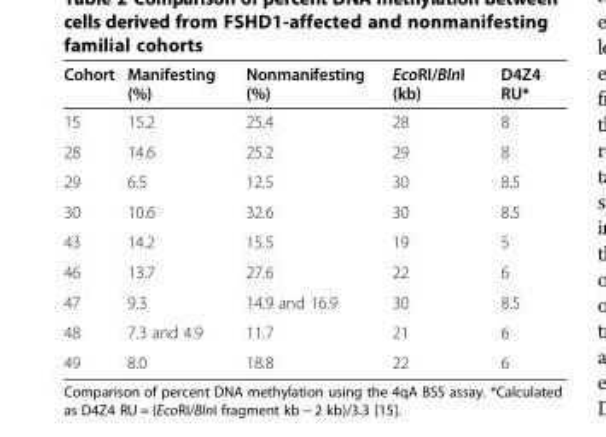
<table><thead><tr><td>Cohort</td><td>Manifesting (%)</td><td>Nonmanifesting (%)</td><td>EcoRI/BlnI (kb)</td><td>D4Z4 RU*</td></tr></thead><tbody><tr><td>15</td><td>15.2</td><td>25.4</td><td>28</td><td>8</td></tr><tr><td>28</td><td>14.6</td><td>25.2</td><td>29</td><td>8</td></tr><tr><td>29</td><td>6.5</td><td>12.5</td><td>30</td><td>8.5</td></tr><tr><td>30</td><td>10.6</td><td>32.6</td><td>30</td><td>8.5</td></tr><tr><td>43</td><td>14.2</td><td>15.5</td><td>19</td><td>5</td></tr><tr><td>46</td><td>13.7</td><td>27.6</td><td>22</td><td>6</td></tr><tr><td>47</td><td>9.3</td><td>14.9 and 16.9</td><td>30</td><td>8.5</td></tr><tr><td>48</td><td>7.3 and 4.9</td><td>11.7</td><td>21</td><td>6</td></tr><tr><td>49</td><td>8.0</td><td>18.8</td><td>22</td><td>6</td></tr></tbody></table>